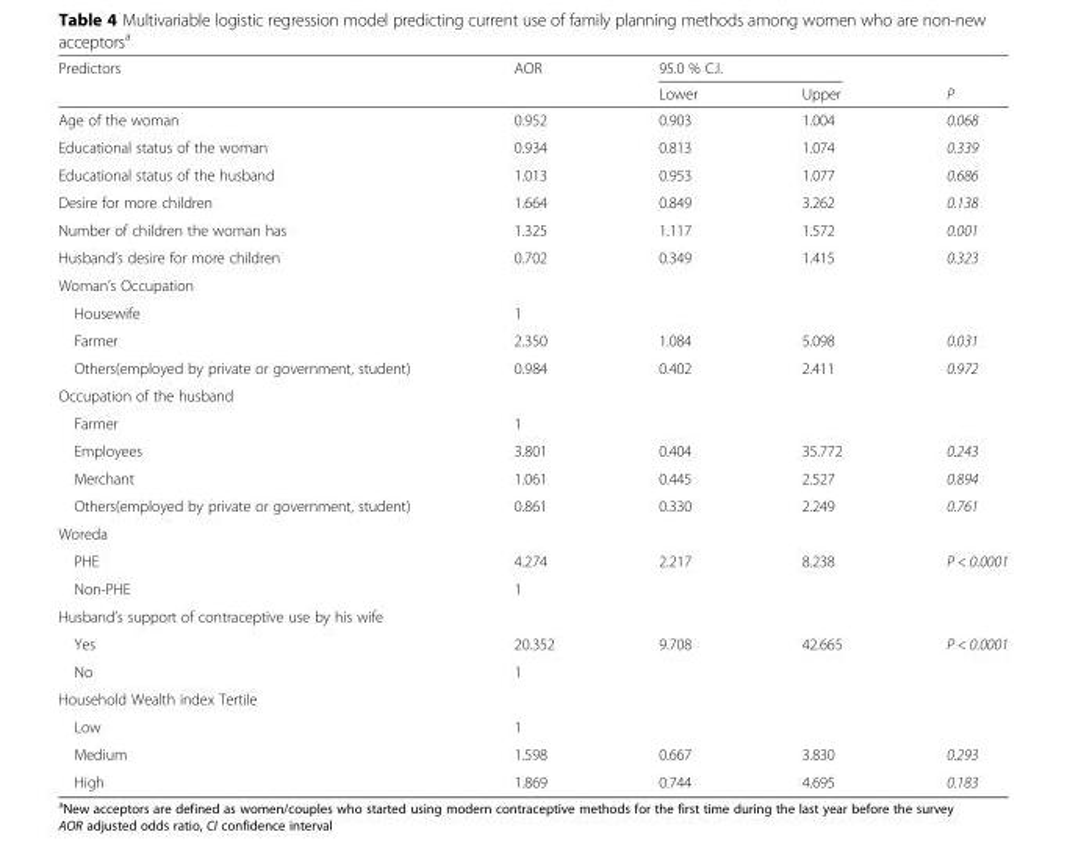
<table><thead><tr><td rowspan="2">Predictors</td><td rowspan="2">AOR</td><td colspan="2">95.0 % C.I.</td><td rowspan="2">P</td></tr><tr><td>Lower</td><td>Upper</td></tr></thead><tbody><tr><td>Age of the woman</td><td>0.952</td><td>0.903</td><td>1.004</td><td>0.068</td></tr><tr><td>Educational status of the woman</td><td>0.934</td><td>0.813</td><td>1.074</td><td>0.339</td></tr><tr><td>Educational status of the husband</td><td>1.013</td><td>0.953</td><td>1.077</td><td>0.686</td></tr><tr><td>Desire for more children</td><td>1.664</td><td>0.849</td><td>3.262</td><td>0.138</td></tr><tr><td>Number of children the woman has</td><td>1.325</td><td>1.117</td><td>1.572</td><td>0.001</td></tr><tr><td>Husband’s desire for more children</td><td>0.702</td><td>0.349</td><td>1.415</td><td>0.323</td></tr><tr><td colspan="5">Woman’s Occupation</td></tr><tr><td>Housewife</td><td>1</td><td></td><td></td><td></td></tr><tr><td>Farmer</td><td>2.350</td><td>1.084</td><td>5.098</td><td>0.031</td></tr><tr><td>Others(employed by private or government, student)</td><td>0.984</td><td>0.402</td><td>2.411</td><td>0.972</td></tr><tr><td colspan="5">Occupation of the husband</td></tr><tr><td>Farmer</td><td>1</td><td></td><td></td><td></td></tr><tr><td>Employees</td><td>3.801</td><td>0.404</td><td>35.772</td><td>0.243</td></tr><tr><td>Merchant</td><td>1.061</td><td>0.445</td><td>2.527</td><td>0.894</td></tr><tr><td>Others(employed by private or government, student)</td><td>0.861</td><td>0.330</td><td>2.249</td><td>0.761</td></tr><tr><td colspan="5">Woreda</td></tr><tr><td>PHE</td><td>4.274</td><td>2.217</td><td>8.238</td><td>P &lt; 0.0001</td></tr><tr><td>Non-PHE</td><td>1</td><td></td><td></td><td></td></tr><tr><td colspan="5">Husband’s support of contraceptive use by his wife</td></tr><tr><td>Yes</td><td>20.352</td><td>9.708</td><td>42.665</td><td>P &lt; 0.0001</td></tr><tr><td>No</td><td>1</td><td></td><td></td><td></td></tr><tr><td colspan="5">Household Wealth index Tertile</td></tr><tr><td>Low</td><td>1</td><td></td><td></td><td></td></tr><tr><td>Medium</td><td>1.598</td><td>0.667</td><td>3.830</td><td>0.293</td></tr><tr><td>High</td><td>1.869</td><td>0.744</td><td>4.695</td><td>0.183</td></tr></tbody></table>